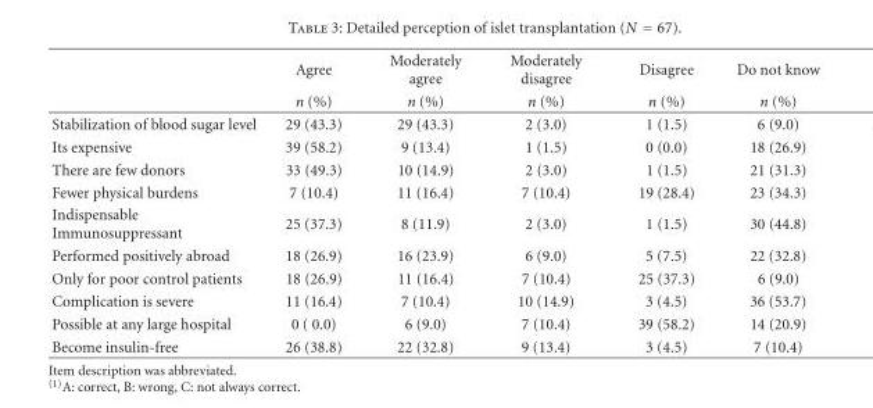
<table><thead><tr><td rowspan="2"></td><td rowspan="2">Agree n (%)</td><td rowspan="2">Moderately agree n (%)</td><td rowspan="2">Moderately disagree n (%)</td><td rowspan="2">Disagree n (%)</td><td rowspan="2">Do not know n (%)</td></tr><tr></tr></thead><tbody><tr><td>Stabilization of blood sugar level</td><td>29 (43.3)</td><td>29 (43.3)</td><td>2 (3.0)</td><td>1 (1.5)</td><td>6 (9.0)</td></tr><tr><td>Its expensive</td><td>39 (58.2)</td><td>9 (13.4)</td><td>1 (1.5)</td><td>0 (0.0)</td><td>18 (26.9)</td></tr><tr><td>There are few donors</td><td>33 (49.3)</td><td>10 (14.9)</td><td>2 (3.0)</td><td>1 (1.5)</td><td>21 (31.3)</td></tr><tr><td>Fewer physical burdens</td><td>7 (10.4)</td><td>11 (16.4)</td><td>7 (10.4)</td><td>19 (28.4)</td><td>23 (34.3)</td></tr><tr><td>Indispensable Immunosuppressant</td><td>25 (37.3)</td><td>8 (11.9)</td><td>2 (3.0)</td><td>1 (1.5)</td><td>30 (44.8)</td></tr><tr><td>Performed positively abroad</td><td>18 (26.9)</td><td>16 (23.9)</td><td>6 (9.0)</td><td>5 (7.5)</td><td>22 (32.8)</td></tr><tr><td>Only for poor control patients</td><td>18 (26.9)</td><td>11 (16.4)</td><td>7 (10.4)</td><td>25 (37.3)</td><td>6 (9.0)</td></tr><tr><td>Complication is severe</td><td>11 (16.4)</td><td>7 (10.4)</td><td>10 (14.9)</td><td>3 (4.5)</td><td>36 (53.7)</td></tr><tr><td>Possible at any large hospital</td><td>0 ( 0.0)</td><td>6 (9.0)</td><td>7 (10.4)</td><td>39 (58.2)</td><td>14 (20.9)</td></tr><tr><td>Become insulin-free</td><td>26 (38.8)</td><td>22 (32.8)</td><td>9 (13.4)</td><td>3 (4.5)</td><td>7 (10.4)</td></tr></tbody></table>